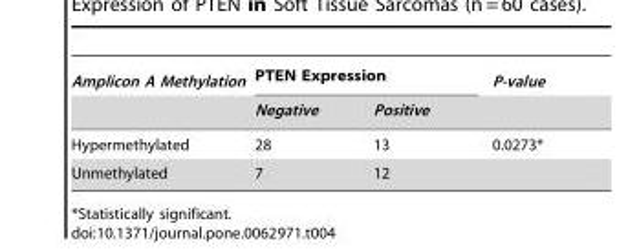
<table><thead><tr><td rowspan="2">Amplicon A Methylation</td><td colspan="2">PTEN Expression</td><td rowspan="2">P-value</td></tr><tr><td>Negative</td><td>Positive</td></tr></thead><tbody><tr><td>Hypermethylated</td><td>28</td><td>13</td><td>0.0273*</td></tr><tr><td>Unmethylated</td><td>7</td><td>12</td><td></td></tr></tbody></table>